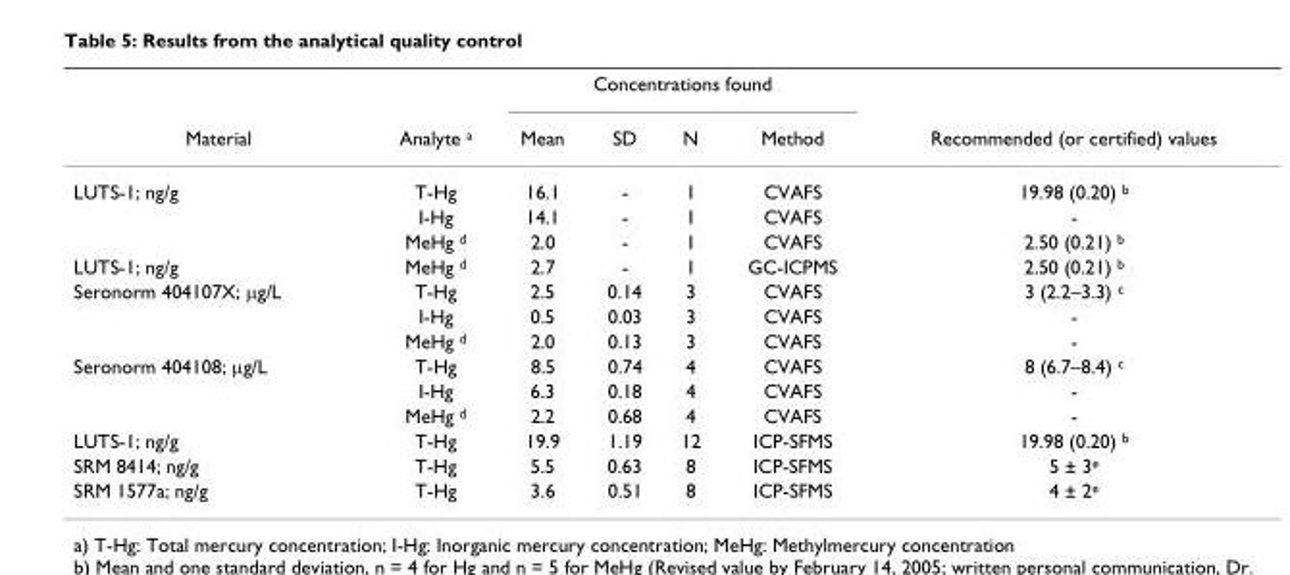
<table><thead><tr><td rowspan="2">Material</td><td rowspan="2">Analyte <sup>a</sup></td><td colspan="4">Concentrations found</td><td rowspan="2">Recommended (or certified) values</td></tr><tr><td>Mean</td><td>SD</td><td>N</td><td>Method</td></tr></thead><tbody><tr><td rowspan="3">LUTS-1; ng/g</td><td>T-Hg</td><td>16.1</td><td>-</td><td>1</td><td>CVAFS</td><td>19.98 (0.20) <sup>b</sup></td></tr><tr><td>I-Hg</td><td>14.1</td><td>-</td><td>1</td><td>CVAFS</td><td>-</td></tr><tr><td>MeHg <sup>d</sup></td><td>2.0</td><td>-</td><td>1</td><td>CVAFS</td><td>2.50 (0.21) <sup>b</sup></td></tr><tr><td>LUTS-1; ng/g</td><td>MeHg <sup>d</sup></td><td>2.7</td><td>-</td><td>1</td><td>GC-ICPMS</td><td>2.50 (0.21) <sup>b</sup></td></tr><tr><td rowspan="3">Seronorm 404107X; µg/L</td><td>T-Hg</td><td>2.5</td><td>0.14</td><td>3</td><td>CVAFS</td><td>3 (2.2–3.3) <sup>c</sup></td></tr><tr><td>I-Hg</td><td>0.5</td><td>0.03</td><td>3</td><td>CVAFS</td><td>-</td></tr><tr><td>MeHg <sup>d</sup></td><td>2.0</td><td>0.13</td><td>3</td><td>CVAFS</td><td>-</td></tr><tr><td rowspan="3">Seronorm 404108; µg/L</td><td>T-Hg</td><td>8.5</td><td>0.74</td><td>4</td><td>CVAFS</td><td>8 (6.7–8.4) <sup>c</sup></td></tr><tr><td>I-Hg</td><td>6.3</td><td>0.18</td><td>4</td><td>CVAFS</td><td>-</td></tr><tr><td>MeHg <sup>d</sup></td><td>2.2</td><td>0.68</td><td>4</td><td>CVAFS</td><td>-</td></tr><tr><td>LUTS-1; ng/g</td><td>T-Hg</td><td>19.9</td><td>1.19</td><td>12</td><td>ICP-SFMS</td><td>19.98 (0.20) <sup>b</sup></td></tr><tr><td>SRM 8414; ng/g</td><td>T-Hg</td><td>5.5</td><td>0.63</td><td>8</td><td>ICP-SFMS</td><td>5 ± 3<sup>e</sup></td></tr><tr><td>SRM 1577a; ng/g</td><td>T-Hg</td><td>3.6</td><td>0.51</td><td>8</td><td>ICP-SFMS</td><td>4 ± 2<sup>e</sup></td></tr></tbody></table>